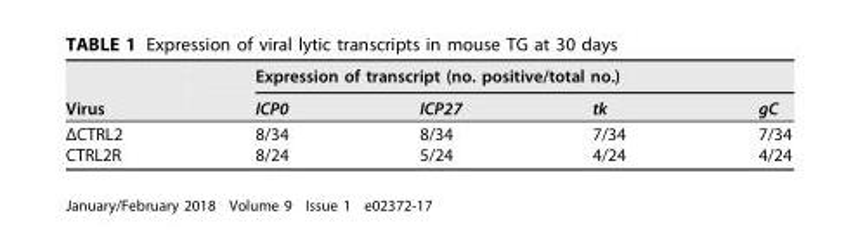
<table><thead><tr><td rowspan="2">Virus</td><td colspan="4">Expression of transcript (no. positive/total no.)</td></tr><tr><td>ICP0</td><td>ICP27</td><td>tk</td><td>gC</td></tr></thead><tbody><tr><td>ΔCTRL2</td><td>8/34</td><td>8/34</td><td>7/34</td><td>7/34</td></tr><tr><td>CTRL2R</td><td>8/24</td><td>5/24</td><td>4/24</td><td>4/24</td></tr></tbody></table>